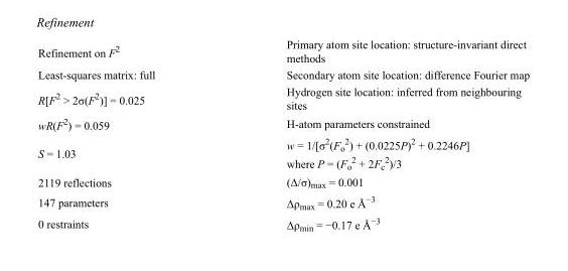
<table><tbody><tr><td>Refinement on F<sup>2</sup></td><td>Primary atom site location: structure-invariant direct methods</td></tr><tr><td>Least-squares matrix: full</td><td>Secondary atom site location: difference Fourier map</td></tr><tr><td>R[F<sup>2</sup> &gt; 2σ(F<sup>2</sup>)] = 0.025</td><td>Hydrogen site location: inferred from neighbouring sites</td></tr><tr><td>wR(F<sup>2</sup>) = 0.059</td><td>H-atom parameters constrained</td></tr><tr><td>S = 1.03</td><td>w = 1/[σ<sup>2</sup>(F<sub>o</sub> <sup>2</sup>) + (0.0225P)<sup>2</sup> + 0.2246P] where P = (F<sub>o</sub> <sup>2</sup> + 2F<sub>c</sub> <sup>2</sup>)/3</td></tr><tr><td>2119 reflections</td><td>(Δ/σ)<sub>max</sub> = 0.001</td></tr><tr><td>147 parameters</td><td>Δρ<sub>max</sub> = 0.20 e Å<sup>−3</sup></td></tr><tr><td>0 restraints</td><td>Δρ<sub>min</sub> = −0.17 e Å<sup>−3</sup></td></tr></tbody></table>